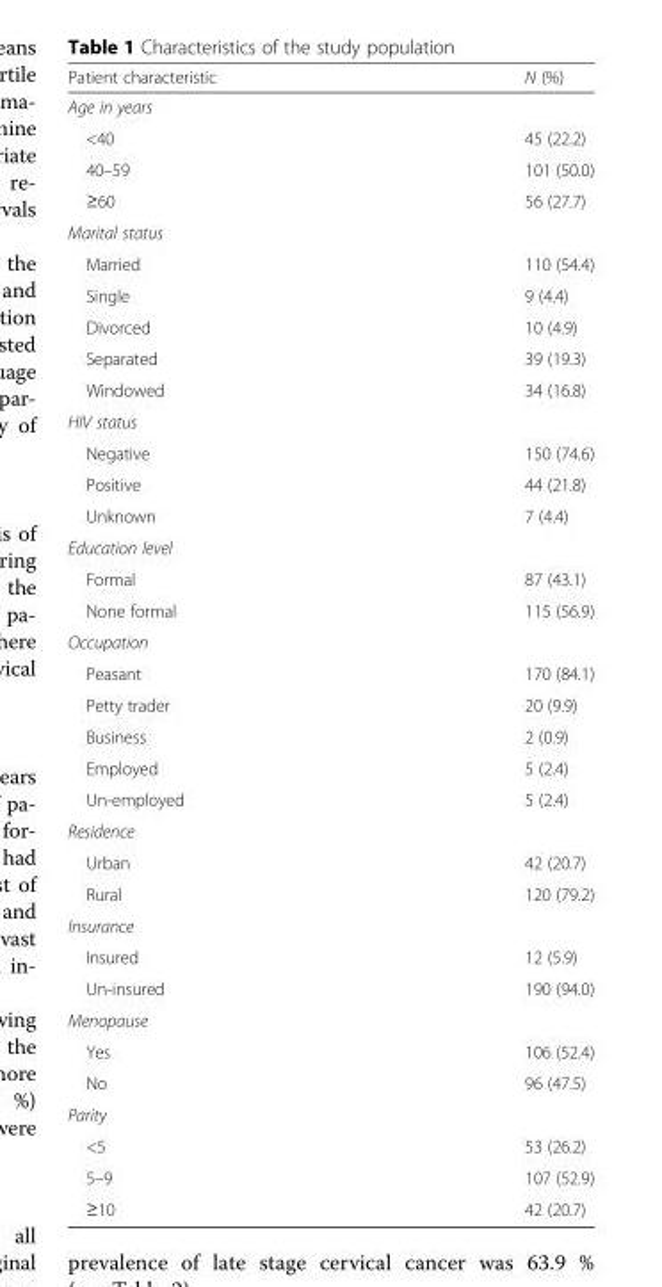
<table><thead><tr><td>Patient characteristic</td><td>N (%)</td></tr></thead><tbody><tr><td colspan="2">Age in years</td></tr><tr><td>&lt;40</td><td>45 (22.2)</td></tr><tr><td>40–59</td><td>101 (50.0)</td></tr><tr><td>≥60</td><td>56 (27.7)</td></tr><tr><td colspan="2">Marital status</td></tr><tr><td>Married</td><td>110 (54.4)</td></tr><tr><td>Single</td><td>9 (4.4)</td></tr><tr><td>Divorced</td><td>10 (4.9)</td></tr><tr><td>Separated</td><td>39 (19.3)</td></tr><tr><td>Windowed</td><td>34 (16.8)</td></tr><tr><td colspan="2">HIV status</td></tr><tr><td>Negative</td><td>150 (74.6)</td></tr><tr><td>Positive</td><td>44 (21.8)</td></tr><tr><td>Unknown</td><td>7 (4.4)</td></tr><tr><td colspan="2">Education level</td></tr><tr><td>Formal</td><td>87 (43.1)</td></tr><tr><td>None formal</td><td>115 (56.9)</td></tr><tr><td colspan="2">Occupation</td></tr><tr><td>Peasant</td><td>170 (84.1)</td></tr><tr><td>Petty trader</td><td>20 (9.9)</td></tr><tr><td>Business</td><td>2 (0.9)</td></tr><tr><td>Employed</td><td>5 (2.4)</td></tr><tr><td>Un-employed</td><td>5 (2.4)</td></tr><tr><td colspan="2">Residence</td></tr><tr><td>Urban</td><td>42 (20.7)</td></tr><tr><td>Rural</td><td>120 (79.2)</td></tr><tr><td colspan="2">Insurance</td></tr><tr><td>Insured</td><td>12 (5.9)</td></tr><tr><td>Un-insured</td><td>190 (94.0)</td></tr><tr><td colspan="2">Menopause</td></tr><tr><td>Yes</td><td>106 (52.4)</td></tr><tr><td>No</td><td>96 (47.5)</td></tr><tr><td colspan="2">Parity</td></tr><tr><td>&lt;5</td><td>53 (26.2)</td></tr><tr><td>5–9</td><td>107 (52.9)</td></tr><tr><td>≥10</td><td>42 (20.7)</td></tr></tbody></table>